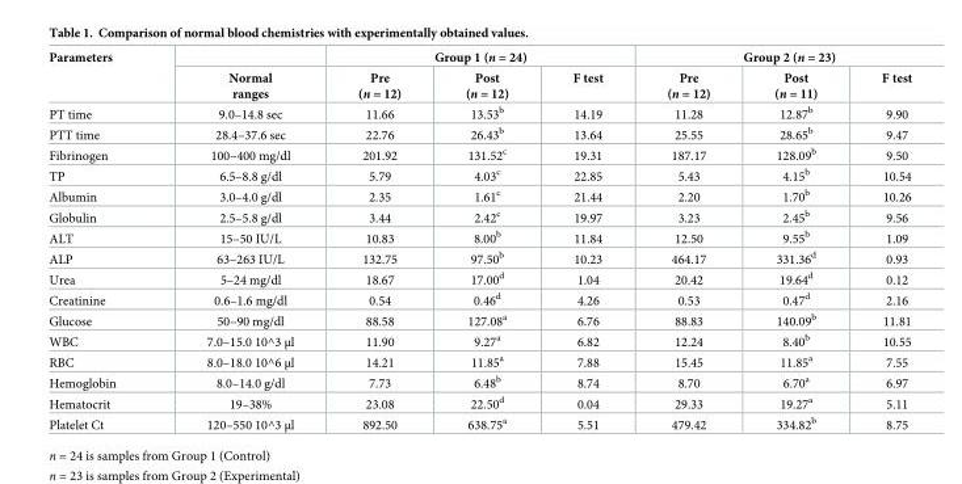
<table><thead><tr><td rowspan="2">Parameters</td><td rowspan="2">Normal ranges</td><td colspan="3">Group 1 (n = 24)</td><td colspan="3">Group 2 (n = 23)</td></tr><tr><td>Pre (n = 12)</td><td>Post (n = 12)</td><td>F test</td><td>Pre (n = 12)</td><td>Post (n = 11)</td><td>F test</td></tr></thead><tbody><tr><td>PT time</td><td>9.0–14.8 sec</td><td>11.66</td><td>13.53<sup>b</sup></td><td>14.19</td><td>11.28</td><td>12.87<sup>b</sup></td><td>9.90</td></tr><tr><td>PTT time</td><td>28.4–37.6 sec</td><td>22.76</td><td>26.43<sup>b</sup></td><td>13.64</td><td>25.55</td><td>28.65<sup>b</sup></td><td>9.47</td></tr><tr><td>Fibrinogen</td><td>100–400 mg/dl</td><td>201.92</td><td>131.52<sup>c</sup></td><td>19.31</td><td>187.17</td><td>128.09<sup>b</sup></td><td>9.50</td></tr><tr><td>TP</td><td>6.5–8.8 g/dl</td><td>5.79</td><td>4.03<sup>c</sup></td><td>22.85</td><td>5.43</td><td>4.15<sup>b</sup></td><td>10.54</td></tr><tr><td>Albumin</td><td>3.0–4.0 g/dl</td><td>2.35</td><td>1.61<sup>c</sup></td><td>21.44</td><td>2.20</td><td>1.70<sup>b</sup></td><td>10.26</td></tr><tr><td>Globulin</td><td>2.5–5.8 g/dl</td><td>3.44</td><td>2.42<sup>c</sup></td><td>19.97</td><td>3.23</td><td>2.45<sup>b</sup></td><td>9.56</td></tr><tr><td>ALT</td><td>15–50 IU/L</td><td>10.83</td><td>8.00<sup>b</sup></td><td>11.84</td><td>12.50</td><td>9.55<sup>b</sup></td><td>1.09</td></tr><tr><td>ALP</td><td>63–263 IU/L</td><td>132.75</td><td>97.50<sup>b</sup></td><td>10.23</td><td>464.17</td><td>331.36<sup>d</sup></td><td>0.93</td></tr><tr><td>Urea</td><td>5–24 mg/dl</td><td>18.67</td><td>17.00<sup>d</sup></td><td>1.04</td><td>20.42</td><td>19.64<sup>d</sup></td><td>0.12</td></tr><tr><td>Creatinine</td><td>0.6–1.6 mg/dl</td><td>0.54</td><td>0.46<sup>d</sup></td><td>4.26</td><td>0.53</td><td>0.47<sup>d</sup></td><td>2.16</td></tr><tr><td>Glucose</td><td>50–90 mg/dl</td><td>88.58</td><td>127.08<sup>a</sup></td><td>6.76</td><td>88.83</td><td>140.09<sup>b</sup></td><td>11.81</td></tr><tr><td>WBC</td><td>7.0–15.0 10^3 μl</td><td>11.90</td><td>9.27<sup>a</sup></td><td>6.82</td><td>12.24</td><td>8.40<sup>b</sup></td><td>10.55</td></tr><tr><td>RBC</td><td>8.0–18.0 10^6 μl</td><td>14.21</td><td>11.85<sup>a</sup></td><td>7.88</td><td>15.45</td><td>11.85<sup>a</sup></td><td>7.55</td></tr><tr><td>Hemoglobin</td><td>8.0–14.0 g/dl</td><td>7.73</td><td>6.48<sup>b</sup></td><td>8.74</td><td>8.70</td><td>6.70<sup>a</sup></td><td>6.97</td></tr><tr><td>Hematocrit</td><td>19–38%</td><td>23.08</td><td>22.50<sup>d</sup></td><td>0.04</td><td>29.33</td><td>19.27<sup>a</sup></td><td>5.11</td></tr><tr><td>Platelet Ct</td><td>120–550 10^3 μl</td><td>892.50</td><td>638.75<sup>a</sup></td><td>5.51</td><td>479.42</td><td>334.82<sup>b</sup></td><td>8.75</td></tr></tbody></table>